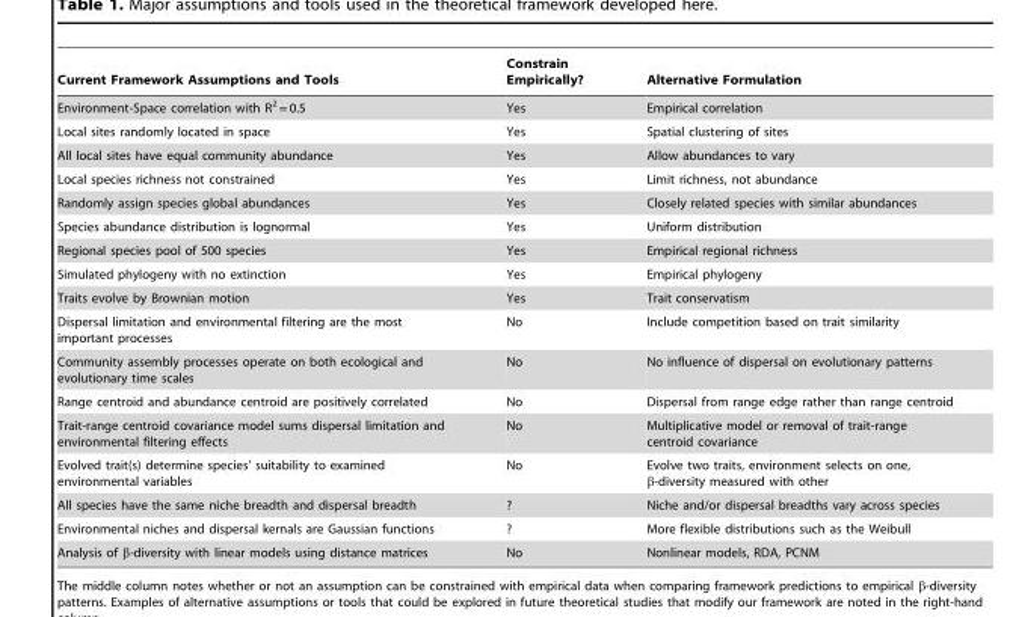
<table><thead><tr><td>Current Framework Assumptions and Tools</td><td>Constrain Empirically?</td><td>Alternative Formulation</td></tr></thead><tbody><tr><td>Environment-Space correlation with R<sup>2</sup> = 0.5</td><td>Yes</td><td>Empirical correlation</td></tr><tr><td>Local sites randomly located in space</td><td>Yes</td><td>Spatial clustering of sites</td></tr><tr><td>All local sites have equal community abundance</td><td>Yes</td><td>Allow abundances to vary</td></tr><tr><td>Local species richness not constrained</td><td>Yes</td><td>Limit richness, not abundance</td></tr><tr><td>Randomly assign species global abundances</td><td>Yes</td><td>Closely related species with similar abundances</td></tr><tr><td>Species abundance distribution is lognormal</td><td>Yes</td><td>Uniform distribution</td></tr><tr><td>Regional species pool of 500 species</td><td>Yes</td><td>Empirical regional richness</td></tr><tr><td>Simulated phylogeny with no extinction</td><td>Yes</td><td>Empirical phylogeny</td></tr><tr><td>Traits evolve by Brownian motion</td><td>Yes</td><td>Trait conservatism</td></tr><tr><td>Dispersal limitation and environmental filtering are the most important processes</td><td>No</td><td>Include competition based on trait similarity</td></tr><tr><td>Community assembly processes operate on both ecological and evolutionary time scales</td><td>No</td><td>No influence of dispersal on evolutionary patterns</td></tr><tr><td>Range centroid and abundance centroid are positively correlated</td><td>No</td><td>Dispersal from range edge rather than range centroid</td></tr><tr><td>Trait-range centroid covariance model sums dispersal limitation and environmental filtering effects</td><td>No</td><td>Multiplicative model or removal of trait-range centroid covariance</td></tr><tr><td>Evolved trait(s) determine species’ suitability to examined environmental variables</td><td>No</td><td>Evolve two traits, environment selects on one, β-diversity measured with other</td></tr><tr><td>All species have the same niche breadth and dispersal breadth</td><td>?</td><td>Niche and/or dispersal breadths vary across species</td></tr><tr><td>Environmental niches and dispersal kernals are Gaussian functions</td><td>?</td><td>More flexible distributions such as the Weibull</td></tr><tr><td>Analysis of β-diversity with linear models using distance matrices</td><td>No</td><td>Nonlinear models, RDA, PCNM</td></tr></tbody></table>